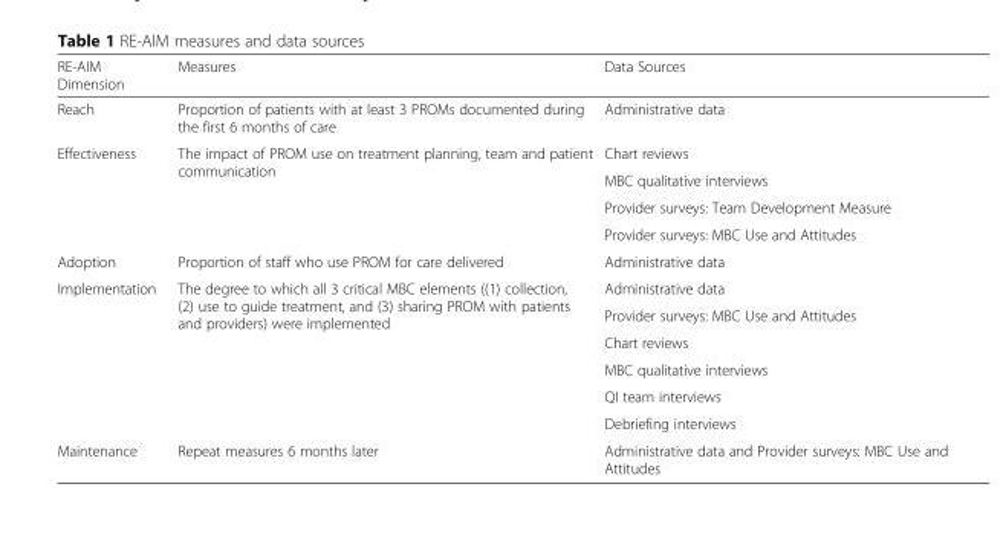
<table><thead><tr><td>RE-AIM Dimension</td><td>Measures</td><td>Data Sources</td></tr></thead><tbody><tr><td>Reach</td><td>Proportion of patients with at least 3 PROMs documented during the first 6 months of care</td><td>Administrative data</td></tr><tr><td rowspan="4">Effectiveness</td><td rowspan="4">The impact of PROM use on treatment planning, team and patient communication</td><td>Chart reviews</td></tr><tr><td>MBC qualitative interviews</td></tr><tr><td>Provider surveys: Team Development Measure</td></tr><tr><td>Provider surveys: MBC Use and Attitudes</td></tr><tr><td>Adoption</td><td>Proportion of staff who use PROM for care delivered</td><td>Administrative data</td></tr><tr><td rowspan="6">Implementation</td><td rowspan="6">The degree to which all 3 critical MBC elements ((1) collection, (2) use to guide treatment, and (3) sharing PROM with patients and providers) were implemented</td><td>Administrative data</td></tr><tr><td>Provider surveys: MBC Use and Attitudes</td></tr><tr><td>Chart reviews</td></tr><tr><td>MBC qualitative interviews</td></tr><tr><td>QI team interviews</td></tr><tr><td>Debriefing interviews</td></tr><tr><td>Maintenance</td><td>Repeat measures 6 months later</td><td>Administrative data and Provider surveys: MBC Use and Attitudes</td></tr></tbody></table>